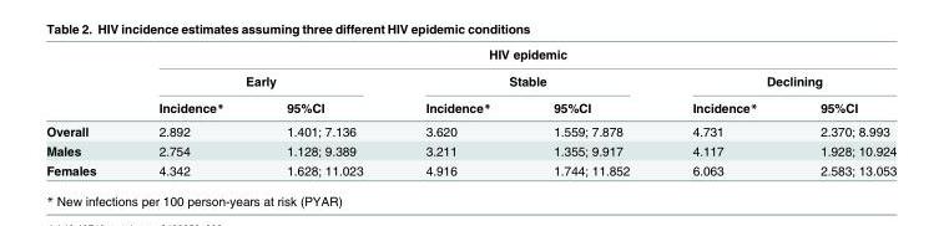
<table><thead><tr><td rowspan="3"></td><td colspan="6">HIV epidemic</td></tr><tr><td colspan="2">Early</td><td colspan="2">Stable</td><td colspan="2">Declining</td></tr><tr><td>Incidence*</td><td>95%CI</td><td>Incidence*</td><td>95%CI</td><td>Incidence*</td><td>95%CI</td></tr></thead><tbody><tr><td>Overall</td><td>2.892</td><td>1.401; 7.136</td><td>3.620</td><td>1.559; 7.878</td><td>4.731</td><td>2.370; 8.993</td></tr><tr><td>Males</td><td>2.754</td><td>1.128; 9.389</td><td>3.211</td><td>1.355; 9.917</td><td>4.117</td><td>1.928; 10.924</td></tr><tr><td>Females</td><td>4.342</td><td>1.628; 11.023</td><td>4.916</td><td>1.744; 11.852</td><td>6.063</td><td>2.583; 13.053</td></tr></tbody></table>